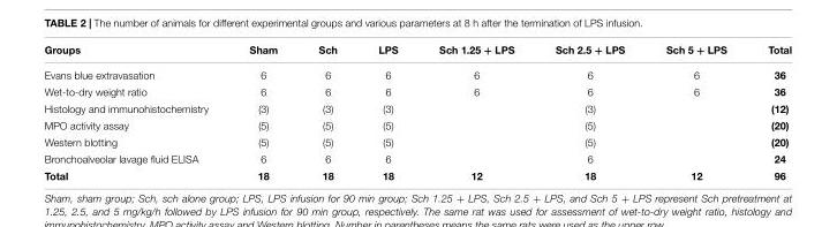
<table><thead><tr><td>Groups</td><td>Sham</td><td>Sch</td><td>LPS</td><td>Sch 1.25 + LPS</td><td>Sch 2.5 + LPS</td><td>Sch 5 + LPS</td><td>Total</td></tr></thead><tbody><tr><td>Evans blue extravasation</td><td>6</td><td>6</td><td>6</td><td>6</td><td>6</td><td>6</td><td>36</td></tr><tr><td>Wet-to-dry weight ratio</td><td>6</td><td>6</td><td>6</td><td>6</td><td>6</td><td>6</td><td>36</td></tr><tr><td>Histology and immunohistochemistry</td><td>(3)</td><td>(3)</td><td>(3)</td><td></td><td>(3)</td><td></td><td>(12)</td></tr><tr><td>MPO activity assay</td><td>(5)</td><td>(5)</td><td>(5)</td><td></td><td>(5)</td><td></td><td>(20)</td></tr><tr><td>Western blotting</td><td>(5)</td><td>(5)</td><td>(5)</td><td></td><td>(5)</td><td></td><td>(20)</td></tr><tr><td>Bronchoalveolar lavage fluid ELISA</td><td>6</td><td>6</td><td>6</td><td></td><td>6</td><td></td><td>24</td></tr><tr><td>Total</td><td>18</td><td>18</td><td>18</td><td>12</td><td>18</td><td>12</td><td>96</td></tr></tbody></table>